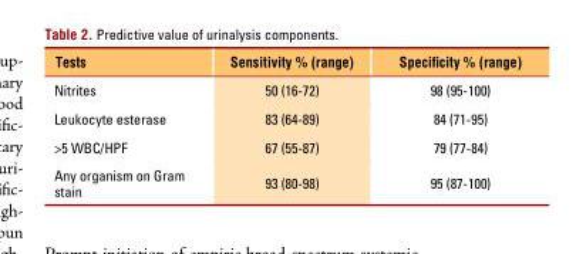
<table><thead><tr><td>Tests</td><td>Sensitivity % (range)</td><td>Specificity % (range)</td></tr></thead><tbody><tr><td>Nitrites</td><td>50 (16-72)</td><td>98 (95-100)</td></tr><tr><td>Leukocyte esterase</td><td>83 (64-89)</td><td>84 (71-95)</td></tr><tr><td>&gt;5 WBC/HPF</td><td>67 (55-87)</td><td>79 (77-84)</td></tr><tr><td>Any organism on Gram stain</td><td>93 (80-98)</td><td>95 (87-100)</td></tr></tbody></table>